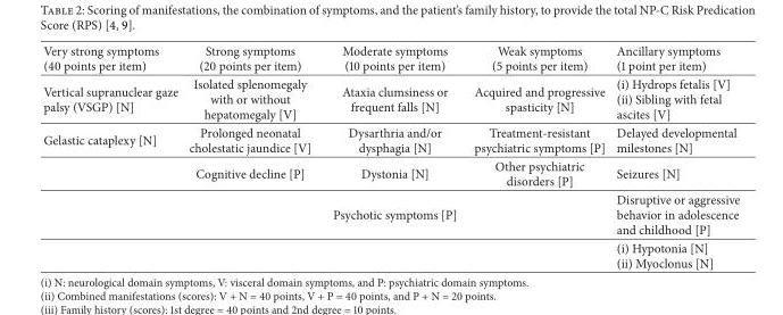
<table><thead><tr><td>Very strong symptoms (40 points per item)</td><td>Strong symptoms (20 points per item)</td><td>Moderate symptoms (10 points per item)</td><td>Weak symptoms (5 points per item)</td><td>Ancillary symptoms (1 point per item)</td></tr></thead><tbody><tr><td>Vertical supranuclear gaze palsy (VSGP) [N]</td><td>Isolated splenomegaly with or without hepatomegaly [V]</td><td>Ataxia clumsiness or frequent falls [N]</td><td>Acquired and progressive spasticity [N]</td><td>(i) Hydrops fetalis [V] (ii) Sibling with fetal ascites [V]</td></tr><tr><td rowspan="4">Gelastic cataplexy [N]</td><td>Prolonged neonatal cholestatic jaundice [V]</td><td>Dysarthria and/or dysphagia [N]</td><td>Treatment-resistant psychiatric symptoms [P]</td><td>Delayed developmental milestones [N]</td></tr><tr><td>Cognitive decline [P]</td><td>Dystonia [N]</td><td>Other psychiatric disorders [P]</td><td>Seizures [N]</td></tr><tr><td></td><td>Psychotic symptoms [P]</td><td></td><td>Disruptive or aggressive behavior in adolescence and childhood [P]</td></tr><tr><td></td><td></td><td></td><td>(i) Hypotonia [N] (ii) Myoclonus [N]</td></tr></tbody></table>